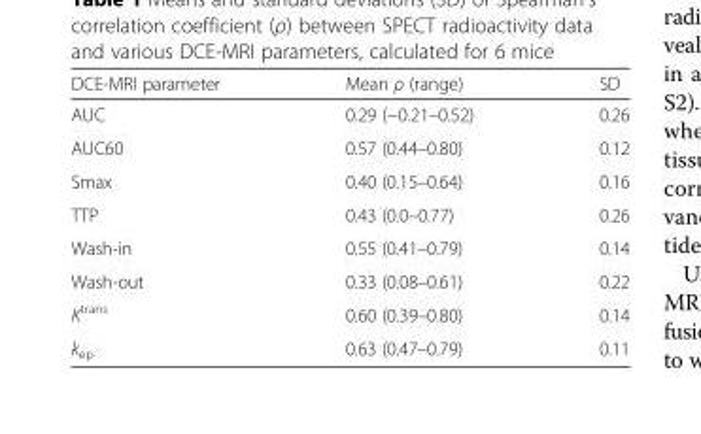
<table><thead><tr><td>DCE-MRI parameter</td><td>Mean ρ (range)</td><td>SD</td></tr></thead><tbody><tr><td>AUC</td><td>0.29 (−0.21–0.52)</td><td>0.26</td></tr><tr><td>AUC60</td><td>0.57 (0.44–0.80)</td><td>0.12</td></tr><tr><td>Smax</td><td>0.40 (0.15–0.64)</td><td>0.16</td></tr><tr><td>TTP</td><td>0.43 (0.0–0.77)</td><td>0.26</td></tr><tr><td>Wash-in</td><td>0.55 (0.41–0.79)</td><td>0.14</td></tr><tr><td>Wash-out</td><td>0.33 (0.08–0.61)</td><td>0.22</td></tr><tr><td>K<sup>trans</sup></td><td>0.60 (0.39–0.80)</td><td>0.14</td></tr><tr><td>k<sub>ep</sub></td><td>0.63 (0.47–0.79)</td><td>0.11</td></tr></tbody></table>